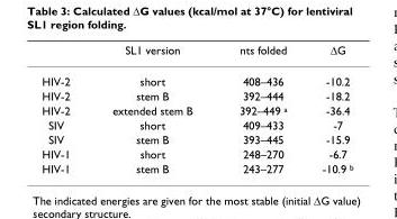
<table><thead><tr><td></td><td>SL1 version</td><td>nts folded</td><td>ΔG</td></tr></thead><tbody><tr><td>HIV-2</td><td>short</td><td>408–436</td><td>-10.2</td></tr><tr><td>HIV-2</td><td>stem B</td><td>392–444</td><td>-18.2</td></tr><tr><td>HIV-2</td><td>extended stem B</td><td>392–449 <sup>a</sup></td><td>-36.4</td></tr><tr><td>SIV</td><td>short</td><td>409–433</td><td>-7</td></tr><tr><td>SIV</td><td>stem B</td><td>393–445</td><td>-15.9</td></tr><tr><td>HIV-1</td><td>short</td><td>248–270</td><td>-6.7</td></tr><tr><td>HIV-1</td><td>stem B</td><td>243–277</td><td>-10.9 <sup>b</sup></td></tr></tbody></table>